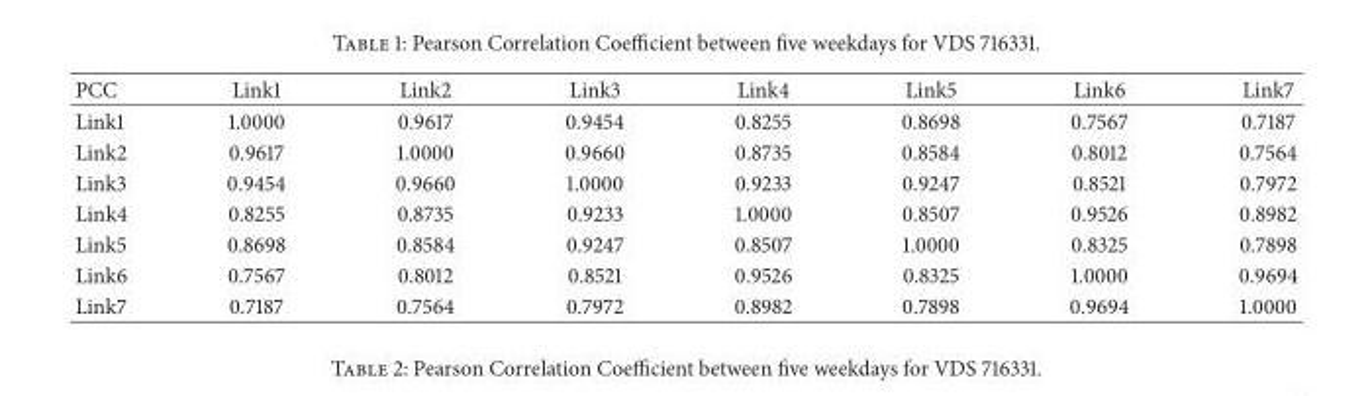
<table><thead><tr><td>PCC</td><td>Link1</td><td>Link2</td><td>Link3</td><td>Link4</td><td>Link5</td><td>Link6</td><td>Link7</td></tr></thead><tbody><tr><td>Link1</td><td>1.0000</td><td>0.9617</td><td>0.9454</td><td>0.8255</td><td>0.8698</td><td>0.7567</td><td>0.7187</td></tr><tr><td>Link2</td><td>0.9617</td><td>1.0000</td><td>0.9660</td><td>0.8735</td><td>0.8584</td><td>0.8012</td><td>0.7564</td></tr><tr><td>Link3</td><td>0.9454</td><td>0.9660</td><td>1.0000</td><td>0.9233</td><td>0.9247</td><td>0.8521</td><td>0.7972</td></tr><tr><td>Link4</td><td>0.8255</td><td>0.8735</td><td>0.9233</td><td>1.0000</td><td>0.8507</td><td>0.9526</td><td>0.8982</td></tr><tr><td>Link5</td><td>0.8698</td><td>0.8584</td><td>0.9247</td><td>0.8507</td><td>1.0000</td><td>0.8325</td><td>0.7898</td></tr><tr><td>Link6</td><td>0.7567</td><td>0.8012</td><td>0.8521</td><td>0.9526</td><td>0.8325</td><td>1.0000</td><td>0.9694</td></tr><tr><td>Link7</td><td>0.7187</td><td>0.7564</td><td>0.7972</td><td>0.8982</td><td>0.7898</td><td>0.9694</td><td>1.0000</td></tr></tbody></table>